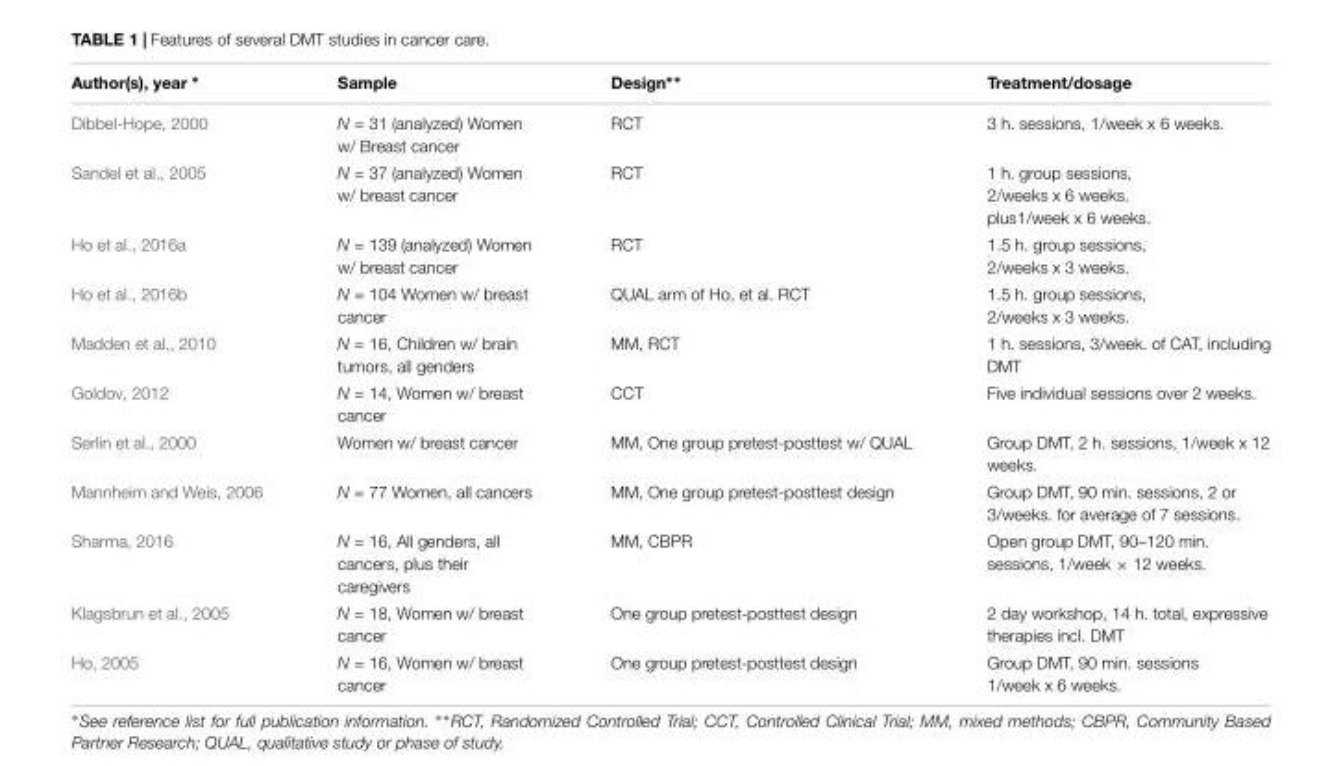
<table><thead><tr><td>Author(s), year ∗</td><td>Sample</td><td>Design∗∗</td><td>Treatment/dosage</td></tr></thead><tbody><tr><td>Dibbel-Hope, 2000</td><td>N = 31 (analyzed) Women w/ Breast cancer</td><td>RCT</td><td>3 h. sessions, 1/week x 6 weeks.</td></tr><tr><td>Sandel et al., 2005</td><td>N = 37 (analyzed) Women w/ breast cancer</td><td>RCT</td><td>1 h. group sessions, 2/weeks x 6 weeks. plus1/week x 6 weeks.</td></tr><tr><td>Ho et al., 2016a</td><td>N = 139 (analyzed) Women w/ breast cancer</td><td>RCT</td><td>1.5 h. group sessions, 2/weeks x 3 weeks.</td></tr><tr><td>Ho et al., 2016b</td><td>N = 104 Women w/ breast cancer</td><td>QUAL arm of Ho, et al. RCT</td><td>1.5 h. group sessions, 2/weeks x 3 weeks.</td></tr><tr><td>Madden et al., 2010</td><td>N = 16, Children w/ brain tumors, all genders</td><td>MM, RCT</td><td>1 h. sessions, 3/week. of CAT, including DMT</td></tr><tr><td>Goldov, 2012</td><td>N = 14, Women w/ breast cancer</td><td>CCT</td><td>Five individual sessions over 2 weeks.</td></tr><tr><td>Serlin et al., 2000</td><td>Women w/ breast cancer</td><td>MM, One group pretest-posttest w/ QUAL</td><td>Group DMT, 2 h. sessions, 1/week x 12 weeks.</td></tr><tr><td>Mannheim and Weis, 2006</td><td>N = 77 Women, all cancers</td><td>MM, One group pretest-posttest design</td><td>Group DMT, 90 min. sessions, 2 or 3/weeks. for average of 7 sessions.</td></tr><tr><td>Sharma, 2016</td><td>N = 16, All genders, all cancers, plus their caregivers</td><td>MM, CBPR</td><td>Open group DMT, 90–120 min. sessions, 1/week × 12 weeks.</td></tr><tr><td>Klagsbrun et al., 2005</td><td>N = 18, Women w/ breast cancer</td><td>One group pretest-posttest design</td><td>2 day workshop, 14 h. total, expressive therapies incl. DMT</td></tr><tr><td>Ho, 2005</td><td>N = 16, Women w/ breast cancer</td><td>One group pretest-posttest design</td><td>Group DMT, 90 min. sessions 1/week x 6 weeks.</td></tr></tbody></table>